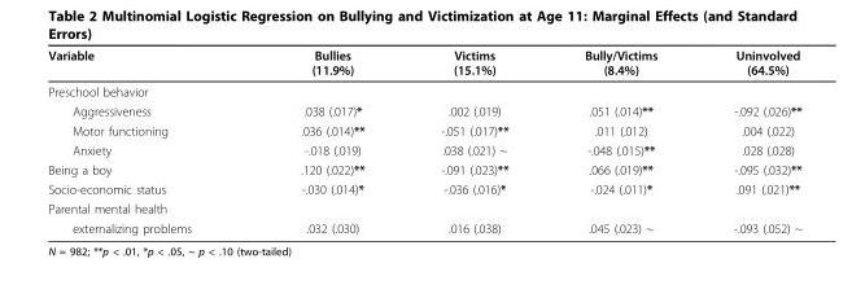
<table><thead><tr><td>Variable</td><td>Bullies (11.9%)</td><td>Victims (15.1%)</td><td>Bully/Victims (8.4%)</td><td>Uninvolved (64.5%)</td></tr></thead><tbody><tr><td colspan="5">Preschool behavior</td></tr><tr><td>Aggressiveness</td><td>.038 (.017)*</td><td>.002 (.019)</td><td>.051 (.014)**</td><td>-.092 (.026)**</td></tr><tr><td>Motor functioning</td><td>.036 (.014)**</td><td>-.051 (.017)**</td><td>.011 (.012)</td><td>.004 (.022)</td></tr><tr><td>Anxiety</td><td>-.018 (.019)</td><td>.038 (.021) ~</td><td>-.048 (.015)**</td><td>.028 (.028)</td></tr><tr><td>Being a boy</td><td>.120 (.022)**</td><td>-.091 (.023)**</td><td>.066 (.019)**</td><td>-.095 (.032)**</td></tr><tr><td>Socio-economic status</td><td>-.030 (.014)*</td><td>-.036 (.016)*</td><td>-.024 (.011)*</td><td>.091 (.021)**</td></tr><tr><td colspan="5">Parental mental health</td></tr><tr><td>externalizing problems</td><td>.032 (.030)</td><td>.016 (.038)</td><td>.045 (.023) ~</td><td>-.093 (.052) ~</td></tr></tbody></table>